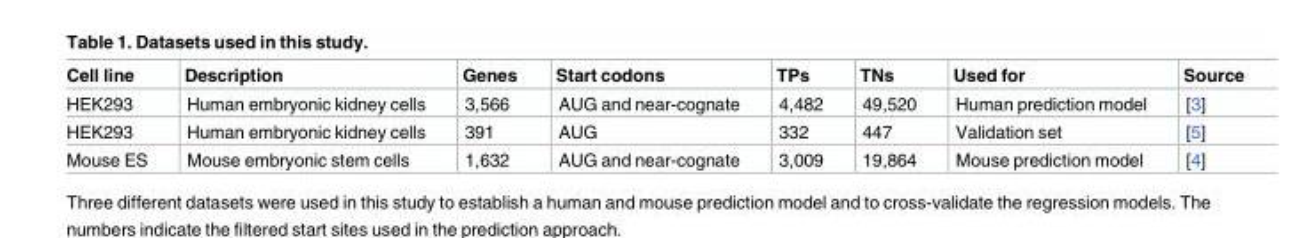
<table><thead><tr><td>Cell line</td><td>Description</td><td>Genes</td><td>Start codons</td><td>TPs</td><td>TNs</td><td>Used for</td><td>Source</td></tr></thead><tbody><tr><td>HEK293</td><td>Human embryonic kidney cells</td><td>3,566</td><td>AUG and near-cognate</td><td>4,482</td><td>49,520</td><td>Human prediction model</td><td>[3]</td></tr><tr><td>HEK293</td><td>Human embryonic kidney cells</td><td>391</td><td>AUG</td><td>332</td><td>447</td><td>Validation set</td><td>[5]</td></tr><tr><td>Mouse ES</td><td>Mouse embryonic stem cells</td><td>1,632</td><td>AUG and near-cognate</td><td>3,009</td><td>19,864</td><td>Mouse prediction model</td><td>[4]</td></tr></tbody></table>